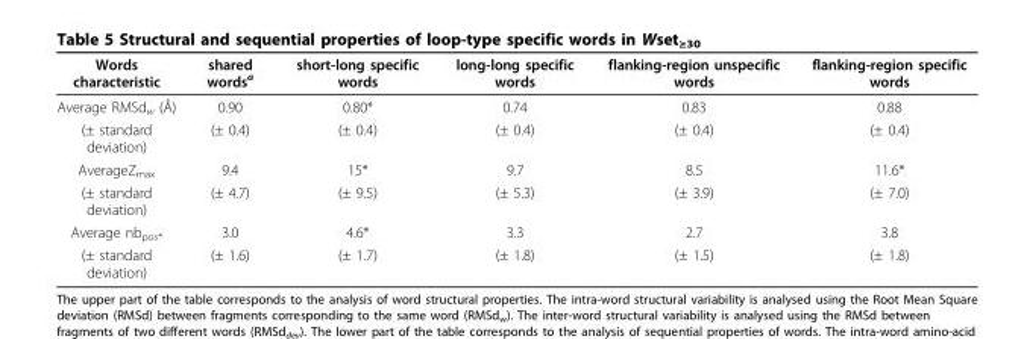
<table><thead><tr><td>Words characteristic</td><td>shared words<sup>a</sup></td><td>short-long specific words</td><td>long-long specific words</td><td>flanking-region unspecific words</td><td>flanking-region specific words</td></tr></thead><tbody><tr><td>Average RMSd<sub>w</sub> (Å)</td><td>0.90</td><td>0.80*</td><td>0.74</td><td>0.83</td><td>0.88</td></tr><tr><td>(± standard deviation)</td><td>(± 0.4)</td><td>(± 0.4)</td><td>(± 0.4)</td><td>(± 0.4)</td><td>(± 0.4)</td></tr><tr><td>AverageZ<sub>max</sub></td><td>9.4</td><td>15*</td><td>9.7</td><td>8.5</td><td>11.6*</td></tr><tr><td>(± standard deviation)</td><td>(± 4.7)</td><td>(± 9.5)</td><td>(± 5.3)</td><td>(± 3.9)</td><td>(± 7.0)</td></tr><tr><td>Average nb<sub>pos*</sub></td><td>3.0</td><td>4.6*</td><td>3.3</td><td>2.7</td><td>3.8</td></tr><tr><td>(± standard deviation)</td><td>(± 1.6)</td><td>(± 1.7)</td><td>(± 1.8)</td><td>(± 1.5)</td><td>(± 1.8)</td></tr></tbody></table>